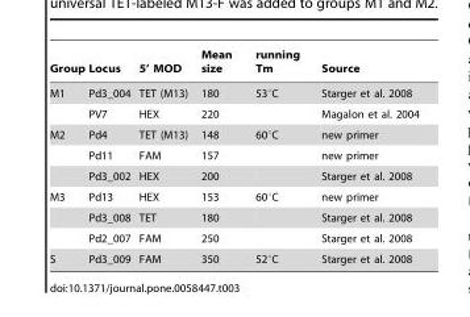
<table><thead><tr><td>Group</td><td>Locus</td><td>5’ MOD</td><td>Mean size</td><td>running Tm</td><td>Source</td></tr></thead><tbody><tr><td rowspan="2">M1</td><td>Pd3_004</td><td>TET (M13)</td><td>180</td><td>53°C</td><td>Starger et al. 2008</td></tr><tr><td>PV7</td><td>HEX</td><td>220</td><td></td><td>Magalon et al. 2004</td></tr><tr><td rowspan="3">M2</td><td>Pd4</td><td>TET (M13)</td><td>148</td><td>60°C</td><td>new primer</td></tr><tr><td>Pd11</td><td>FAM</td><td>157</td><td></td><td>new primer</td></tr><tr><td>Pd3_002</td><td>HEX</td><td>200</td><td></td><td>Starger et al. 2008</td></tr><tr><td rowspan="3">M3</td><td>Pd13</td><td>HEX</td><td>153</td><td>60°C</td><td>new primer</td></tr><tr><td>Pd3_008</td><td>TET</td><td>180</td><td></td><td>Starger et al. 2008</td></tr><tr><td>Pd2_007</td><td>FAM</td><td>250</td><td></td><td>Starger et al. 2008</td></tr><tr><td>S</td><td>Pd3_009</td><td>FAM</td><td>350</td><td>52°C</td><td>Starger et al. 2008</td></tr></tbody></table>